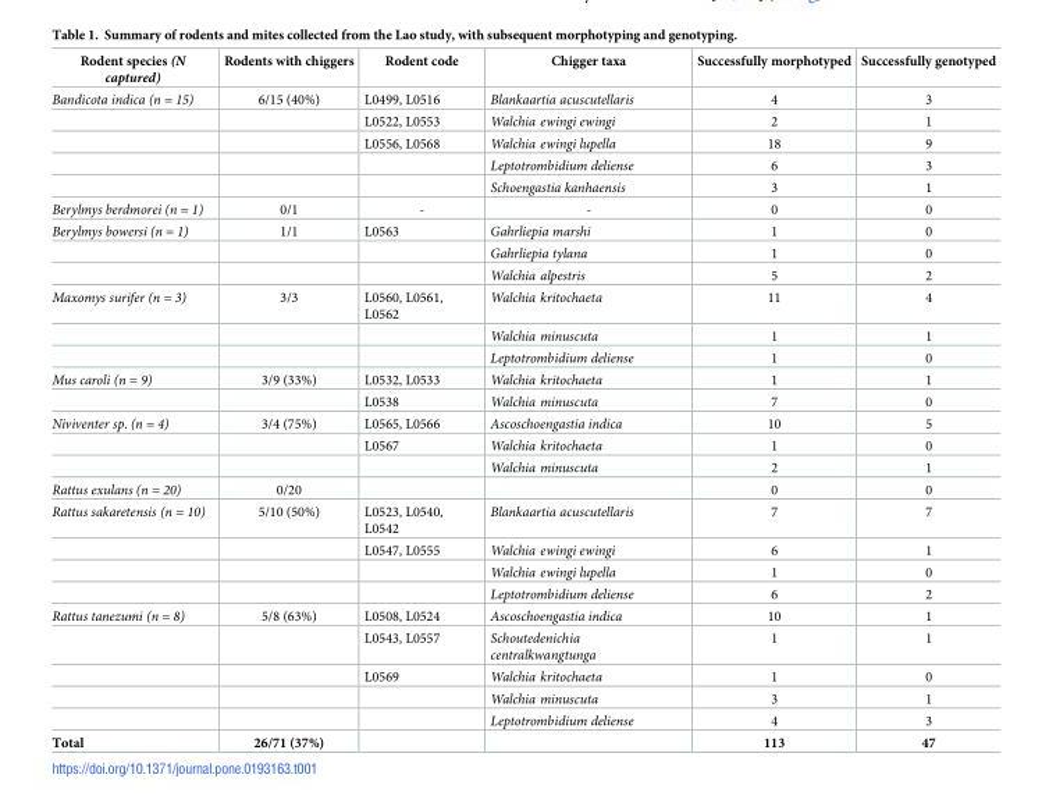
<table><thead><tr><td>Rodent species (N captured)</td><td>Rodents with chiggers</td><td>Rodent code</td><td>Chigger taxa</td><td>Successfully morphotyped</td><td>Successfully genotyped</td></tr></thead><tbody><tr><td rowspan="5">Bandicota indica (n = 15)</td><td>6/15 (40%)</td><td>L0499, L0516</td><td>Blankaartia acuscutellaris</td><td>4</td><td>3</td></tr><tr><td></td><td>L0522, L0553</td><td>Walchia ewingi ewingi</td><td>2</td><td>1</td></tr><tr><td></td><td>L0556, L0568</td><td>Walchia ewingi lupella</td><td>18</td><td>9</td></tr><tr><td></td><td></td><td>Leptotrombidium deliense</td><td>6</td><td>3</td></tr><tr><td></td><td></td><td>Schoengastia kanhaensis</td><td>3</td><td>1</td></tr><tr><td>Berylmys berdmorei (n = 1)</td><td>0/1</td><td>-</td><td>-</td><td>0</td><td>0</td></tr><tr><td rowspan="3">Berylmys bowersi (n = 1)</td><td>1/1</td><td>L0563</td><td>Gahrliepia marshi</td><td>1</td><td>0</td></tr><tr><td></td><td></td><td>Gahrliepia tylana</td><td>1</td><td>0</td></tr><tr><td></td><td></td><td>Walchia alpestris</td><td>5</td><td>2</td></tr><tr><td rowspan="3">Maxomys surifer (n = 3)</td><td>3/3</td><td>L0560, L0561, L0562</td><td>Walchia kritochaeta</td><td>11</td><td>4</td></tr><tr><td></td><td></td><td>Walchia minuscuta</td><td>1</td><td>1</td></tr><tr><td></td><td></td><td>Leptotrombidium deliense</td><td>1</td><td>0</td></tr><tr><td rowspan="2">Mus caroli (n = 9)</td><td>3/9 (33%)</td><td>L0532, L0533</td><td>Walchia kritochaeta</td><td>1</td><td>1</td></tr><tr><td></td><td>L0538</td><td>Walchia minuscuta</td><td>7</td><td>0</td></tr><tr><td rowspan="3">Niviventer sp. (n = 4)</td><td>3/4 (75%)</td><td>L0565, L0566</td><td>Ascoschoengastia indica</td><td>10</td><td>5</td></tr><tr><td></td><td>L0567</td><td>Walchia kritochaeta</td><td>1</td><td>0</td></tr><tr><td></td><td></td><td>Walchia minuscuta</td><td>2</td><td>1</td></tr><tr><td>Rattus exulans (n = 20)</td><td>0/20</td><td></td><td></td><td>0</td><td>0</td></tr><tr><td rowspan="4">Rattus sakaretensis (n = 10)</td><td>5/10 (50%)</td><td>L0523, L0540, L0542</td><td>Blankaartia acuscutellaris</td><td>7</td><td>7</td></tr><tr><td></td><td>L0547, L0555</td><td>Walchia ewingi ewingi</td><td>6</td><td>1</td></tr><tr><td></td><td></td><td>Walchia ewingi lupella</td><td>1</td><td>0</td></tr><tr><td></td><td></td><td>Leptotrombidium deliense</td><td>6</td><td>2</td></tr><tr><td rowspan="5">Rattus tanezumi (n = 8)</td><td>5/8 (63%)</td><td>L0508, L0524</td><td>Ascoschoengastia indica</td><td>10</td><td>1</td></tr><tr><td></td><td>L0543, L0557</td><td>Schoutedenichia centralkwangtunga</td><td>1</td><td>1</td></tr><tr><td></td><td>L0569</td><td>Walchia kritochaeta</td><td>1</td><td>0</td></tr><tr><td></td><td></td><td>Walchia minuscuta</td><td>3</td><td>1</td></tr><tr><td></td><td></td><td>Leptotrombidium deliense</td><td>4</td><td>3</td></tr><tr><td>Total</td><td>26/71 (37%)</td><td></td><td></td><td>113</td><td>47</td></tr></tbody></table>